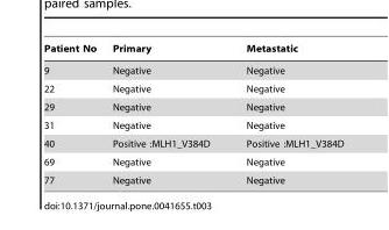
<table><thead><tr><td>Patient No</td><td>Primary</td><td>Metastatic</td></tr></thead><tbody><tr><td>9</td><td>Negative</td><td>Negative</td></tr><tr><td>22</td><td>Negative</td><td>Negative</td></tr><tr><td>29</td><td>Negative</td><td>Negative</td></tr><tr><td>31</td><td>Negative</td><td>Negative</td></tr><tr><td>40</td><td>Positive :MLH1_V384D</td><td>Positive :MLH1_V384D</td></tr><tr><td>69</td><td>Negative</td><td>Negative</td></tr><tr><td>77</td><td>Negative</td><td>Negative</td></tr></tbody></table>